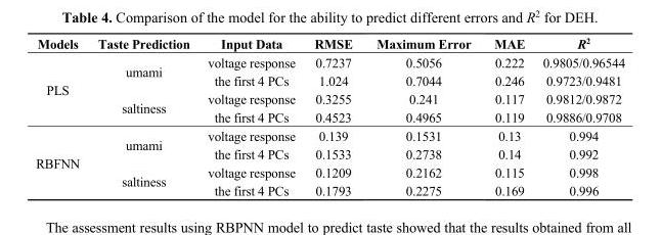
<table><thead><tr><td>Models</td><td>Taste Prediction</td><td>Input Data</td><td>RMSE</td><td>Maximum Error</td><td>MAE</td><td>R<sup>2</sup></td></tr></thead><tbody><tr><td rowspan="4">PLS</td><td rowspan="2">umami</td><td>voltage response</td><td>0.7237</td><td>0.5056</td><td>0.222</td><td>0.9805/0.96544</td></tr><tr><td>the first 4 PCs</td><td>1.024</td><td>0.7044</td><td>0.246</td><td>0.9723/0.9481</td></tr><tr><td rowspan="2">saltiness</td><td>voltage response</td><td>0.3255</td><td>0.241</td><td>0.117</td><td>0.9812/0.9872</td></tr><tr><td>the first 4 PCs</td><td>0.4523</td><td>0.4965</td><td>0.119</td><td>0.9886/0.9708</td></tr><tr><td rowspan="4">RBFNN</td><td rowspan="2">umami</td><td>voltage response</td><td>0.139</td><td>0.1531</td><td>0.13</td><td>0.994</td></tr><tr><td>the first 4 PCs</td><td>0.1533</td><td>0.2738</td><td>0.14</td><td>0.992</td></tr><tr><td rowspan="2">saltiness</td><td>voltage response</td><td>0.1209</td><td>0.2162</td><td>0.115</td><td>0.998</td></tr><tr><td>the first 4 PCs</td><td>0.1793</td><td>0.2275</td><td>0.169</td><td>0.996</td></tr></tbody></table>